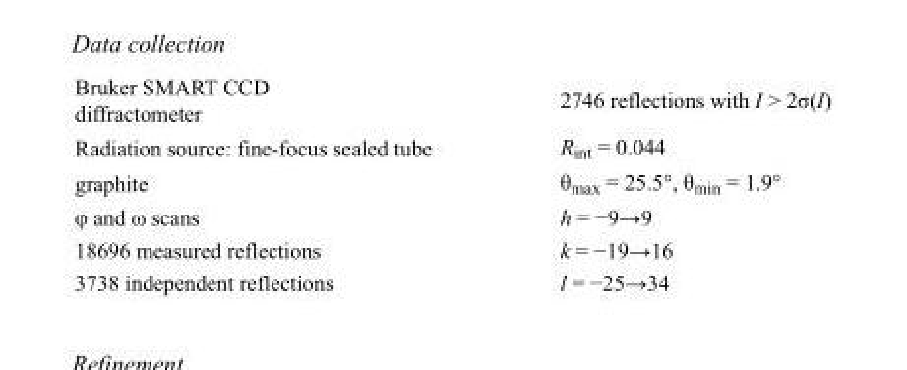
<table><tbody><tr><td>Bruker SMART CCD diffractometer</td><td>2746 reflections with I &gt; 2σ(I)</td></tr><tr><td>Radiation source: fine-focus sealed tube</td><td>R<sub>int</sub> = 0.044</td></tr><tr><td>graphite</td><td>θ<sub>max</sub> = 25.5°, θ<sub>min</sub> = 1.9°</td></tr><tr><td>φ and ω scans</td><td>h = −9→9</td></tr><tr><td>18696 measured reflections</td><td>k = −19→16</td></tr><tr><td>3738 independent reflections</td><td>l = −25→34</td></tr></tbody></table>